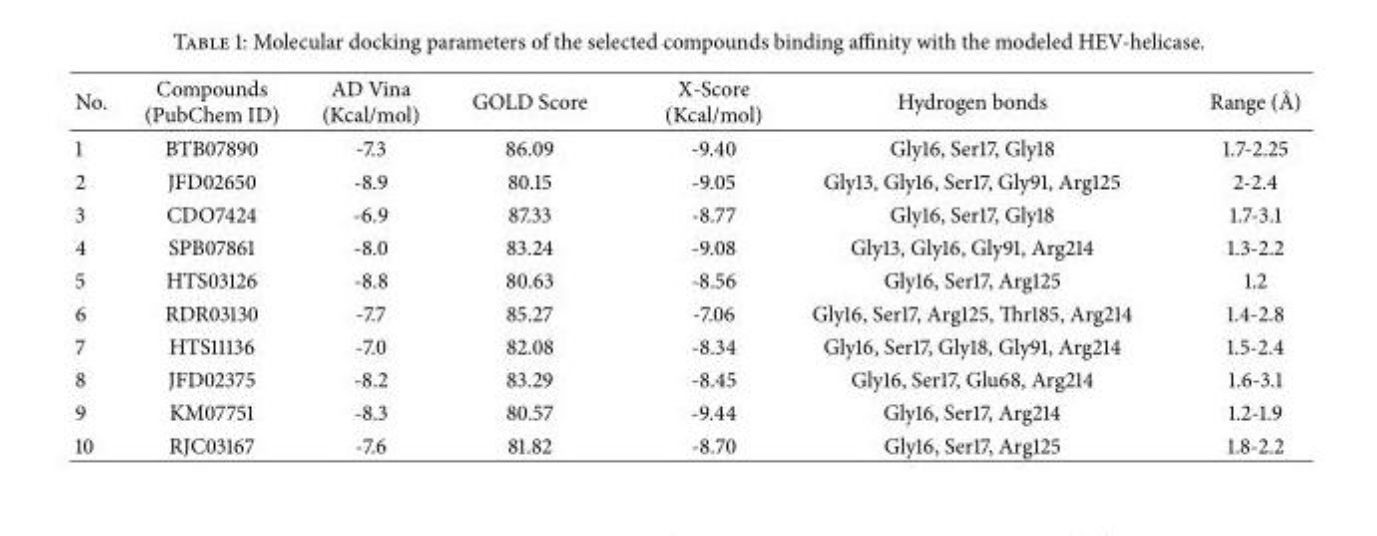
<table><thead><tr><td>No.</td><td>Compounds (PubChem ID)</td><td>AD Vina (Kcal/mol)</td><td>GOLD Score</td><td>X-Score (Kcal/mol)</td><td>Hydrogen bonds</td><td>Range (˚A)</td></tr></thead><tbody><tr><td>1</td><td>BTB07890</td><td>-7.3</td><td>86.09</td><td>-9.40</td><td>Gly16, Ser17, Gly18</td><td>1.7-2.25</td></tr><tr><td>2</td><td>JFD02650</td><td>-8.9</td><td>80.15</td><td>-9.05</td><td>Gly13, Gly16, Ser17, Gly91, Arg125</td><td>2-2.4</td></tr><tr><td>3</td><td>CDO7424</td><td>-6.9</td><td>87.33</td><td>-8.77</td><td>Gly16, Ser17, Gly18</td><td>1.7-3.1</td></tr><tr><td>4</td><td>SPB07861</td><td>-8.0</td><td>83.24</td><td>-9.08</td><td>Gly13, Gly16, Gly91, Arg214</td><td>1.3-2.2</td></tr><tr><td>5</td><td>HTS03126</td><td>-8.8</td><td>80.63</td><td>-8.56</td><td>Gly16, Ser17, Arg125</td><td>1.2</td></tr><tr><td>6</td><td>RDR03130</td><td>-7.7</td><td>85.27</td><td>-7.06</td><td>Gly16, Ser17, Arg125, Thr185, Arg214</td><td>1.4-2.8</td></tr><tr><td>7</td><td>HTS11136</td><td>-7.0</td><td>82.08</td><td>-8.34</td><td>Gly16, Ser17, Gly18, Gly91, Arg214</td><td>1.5-2.4</td></tr><tr><td>8</td><td>JFD02375</td><td>-8.2</td><td>83.29</td><td>-8.45</td><td>Gly16, Ser17, Glu68, Arg214</td><td>1.6-3.1</td></tr><tr><td>9</td><td>KM07751</td><td>-8.3</td><td>80.57</td><td>-9.44</td><td>Gly16, Ser17, Arg214</td><td>1.2-1.9</td></tr><tr><td>10</td><td>RJC03167</td><td>-7.6</td><td>81.82</td><td>-8.70</td><td>Gly16, Ser17, Arg125</td><td>1.8-2.2</td></tr></tbody></table>